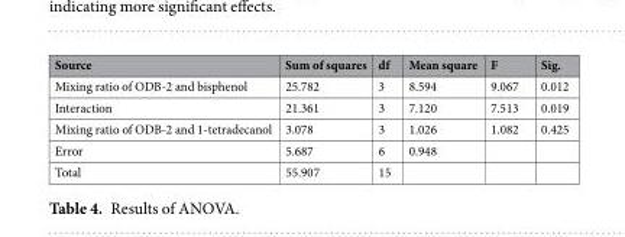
<table><thead><tr><td>Source</td><td>Sum of squares</td><td>df</td><td>Mean square</td><td>F</td><td>Sig.</td></tr></thead><tbody><tr><td>Mixing ratio of ODB-2 and bisphenol</td><td>25.782</td><td>3</td><td>8.594</td><td>9.067</td><td>0.012</td></tr><tr><td>Interaction</td><td>21.361</td><td>3</td><td>7.120</td><td>7.513</td><td>0.019</td></tr><tr><td>Mixing ratio of ODB-2 and 1-tetradecanol</td><td>3.078</td><td>3</td><td>1.026</td><td>1.082</td><td>0.425</td></tr><tr><td>Error</td><td>5.687</td><td>6</td><td>0.948</td><td></td><td></td></tr><tr><td>Total</td><td>55.907</td><td>15</td><td></td><td></td><td></td></tr></tbody></table>